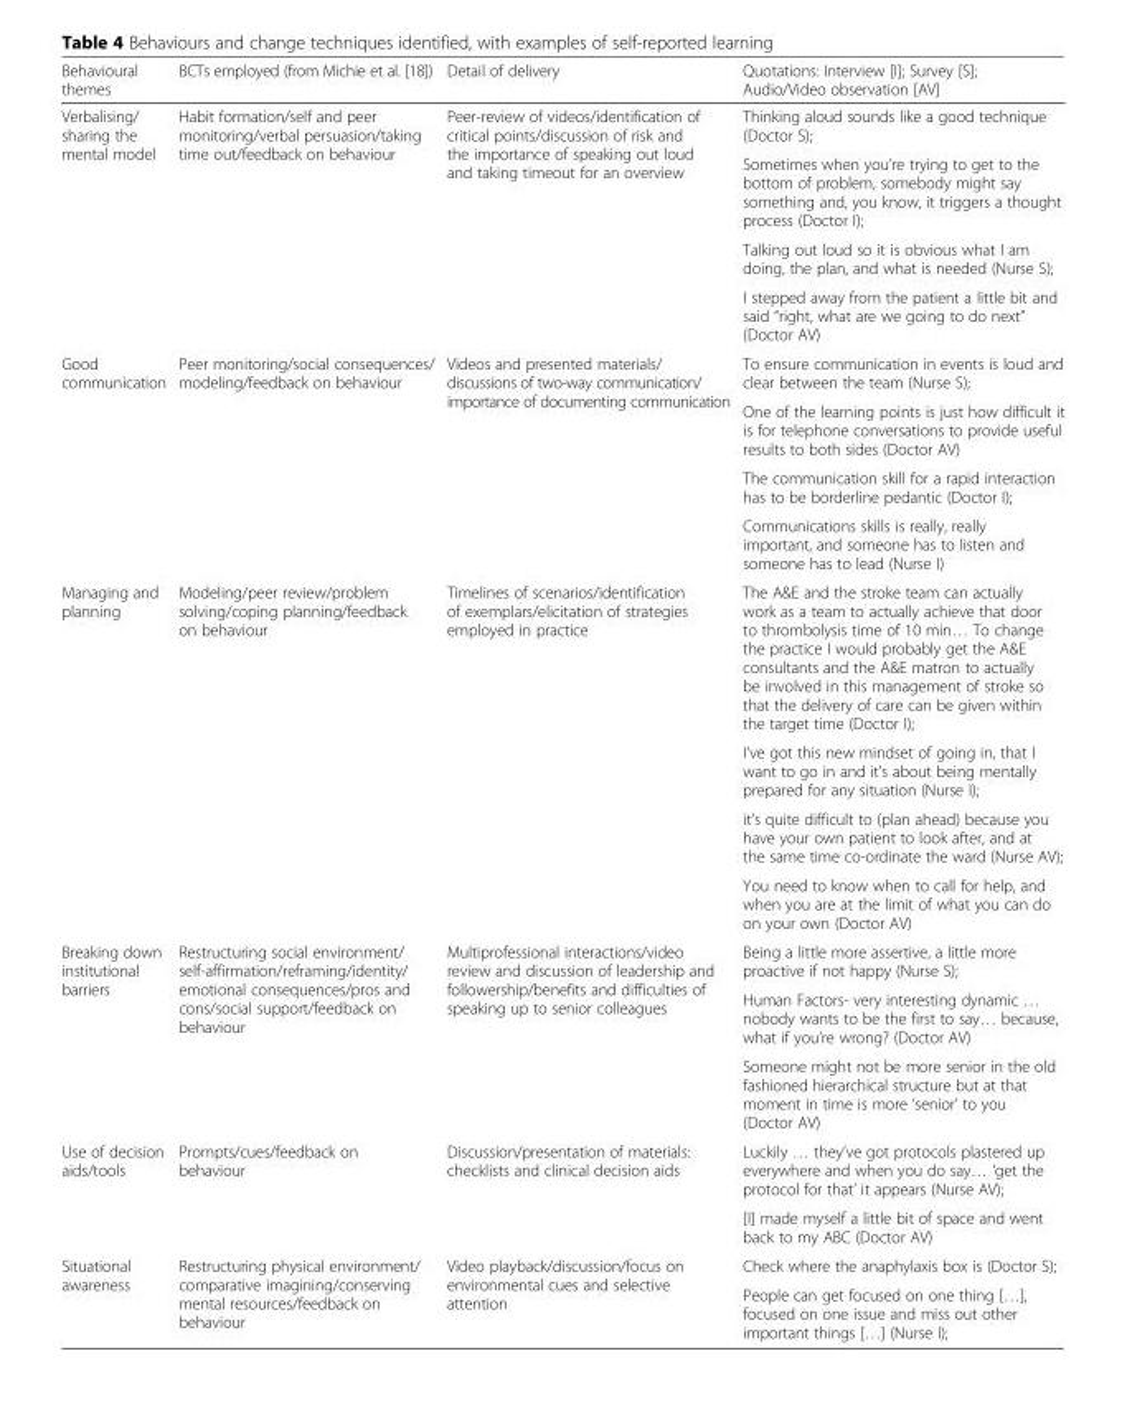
<table><thead><tr><td>Behavioural themes</td><td>BCTs employed (from Michie et al. [18])</td><td>Detail of delivery</td><td>Quotations: Interview [I]; Survey [S]; Audio/Video observation [AV]</td></tr></thead><tbody><tr><td rowspan="4">Verbalising/ sharing the mental model</td><td rowspan="4">Habit formation/self and peer monitoring/verbal persuasion/taking time out/feedback on behaviour</td><td rowspan="4">Peer-review of videos/identification of critical points/discussion of risk and the importance of speaking out loud and taking timeout for an overview</td><td>Thinking aloud sounds like a good technique (Doctor S);</td></tr><tr><td>Sometimes when you’re trying to get to the bottom of problem, somebody might say something and, you know, it triggers a thought process (Doctor I);</td></tr><tr><td>Talking out loud so it is obvious what I am doing, the plan, and what is needed (Nurse S);</td></tr><tr><td>I stepped away from the patient a little bit and said “right, what are we going to do next” (Doctor AV)</td></tr><tr><td rowspan="4">Good communication</td><td rowspan="4">Peer monitoring/social consequences/ modeling/feedback on behaviour</td><td rowspan="4">Videos and presented materials/ discussions of two-way communication/ importance of documenting communication</td><td>To ensure communication in events is loud and clear between the team (Nurse S);</td></tr><tr><td>One of the learning points is just how difficult it is for telephone conversations to provide useful results to both sides (Doctor AV)</td></tr><tr><td>The communication skill for a rapid interaction has to be borderline pedantic (Doctor I);</td></tr><tr><td>Communications skills is really, really important, and someone has to listen and someone has to lead (Nurse I)</td></tr><tr><td rowspan="4">Managing and planning</td><td rowspan="4">Modeling/peer review/problem solving/coping planning/feedback on behaviour</td><td rowspan="4">Timelines of scenarios/identification of exemplars/elicitation of strategies employed in practice</td><td>The A&amp;E and the stroke team can actually work as a team to actually achieve that door to thrombolysis time of 10 min… To change the practice I would probably get the A&amp;E consultants and the A&amp;E matron to actually be involved in this management of stroke so that the delivery of care can be given within the target time (Doctor I);</td></tr><tr><td>I’ve got this new mindset of going in, that I want to go in and it’s about being mentally prepared for any situation (Nurse I);</td></tr><tr><td>it’s quite difficult to (plan ahead) because you have your own patient to look after, and at the same time co-ordinate the ward (Nurse AV);</td></tr><tr><td>You need to know when to call for help, and when you are at the limit of what you can do on your own (Doctor AV)</td></tr><tr><td rowspan="3">Breaking down institutional barriers</td><td rowspan="3">Restructuring social environment/ self-affirmation/reframing/identity/ emotional consequences/pros and cons/social support/feedback on behaviour</td><td rowspan="3">Multiprofessional interactions/video review and discussion of leadership and followership/benefits and difficulties of speaking up to senior colleagues</td><td>Being a little more assertive, a little more proactive if not happy (Nurse S);</td></tr><tr><td>Human Factors- very interesting dynamic … nobody wants to be the first to say… because, what if you’re wrong? (Doctor AV)</td></tr><tr><td>Someone might not be more senior in the old fashioned hierarchical structure but at that moment in time is more ‘senior’ to you (Doctor AV)</td></tr><tr><td rowspan="2">Use of decision aids/tools</td><td rowspan="2">Prompts/cues/feedback on behaviour</td><td rowspan="2">Discussion/presentation of materials: checklists and clinical decision aids</td><td>Luckily … they’ve got protocols plastered up everywhere and when you do say… ‘get the protocol for that’ it appears (Nurse AV);</td></tr><tr><td>[I] made myself a little bit of space and went back to my ABC (Doctor AV)</td></tr><tr><td rowspan="2">Situational awareness</td><td rowspan="2">Restructuring physical environment/ comparative imagining/conserving mental resources/feedback on behaviour</td><td rowspan="2">Video playback/discussion/focus on environmental cues and selective attention</td><td>Check where the anaphylaxis box is (Doctor S);</td></tr><tr><td>People can get focused on one thing […], focused on one issue and miss out other important things […] (Nurse I);</td></tr></tbody></table>